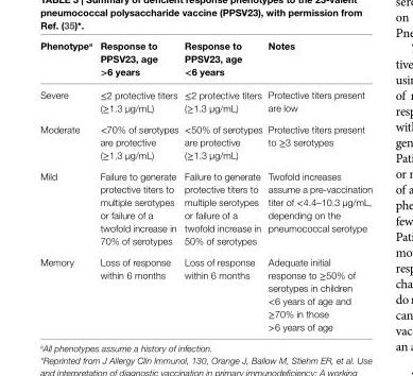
<table><thead><tr><td>Phenotype<sup>a</sup></td><td>response to PPSV23, age &gt;6 years</td><td>response to PPSV23, age &lt;6 years</td><td>notes</td></tr></thead><tbody><tr><td>Severe</td><td>≤2 protective titers (≥1.3 μg/mL)</td><td>≤2 protective titers (≥1.3 μg/mL)</td><td>Protective titers present are low</td></tr><tr><td>Moderate</td><td>&lt;70% of serotypes are protective (≥1.3 μg/mL)</td><td>&lt;50% of serotypes are protective (≥1.3 μg/mL)</td><td>Protective titers present to ≥3 serotypes</td></tr><tr><td>Mild</td><td>Failure to generate protective titers to multiple serotypes or failure of a twofold increase in 70% of serotypes</td><td>Failure to generate protective titers to multiple serotypes or failure of a twofold increase in 50% of serotypes</td><td>Twofold increases assume a pre-vaccination titer of &lt;4.4–10.3 μg/mL, depending on the pneumococcal serotype</td></tr><tr><td>Memory</td><td>Loss of response within 6 months</td><td>Loss of response within 6 months</td><td>Adequate initial response to ≥50% of serotypes in children &lt;6 years of age and ≥70% in those &gt;6 years of age</td></tr></tbody></table>